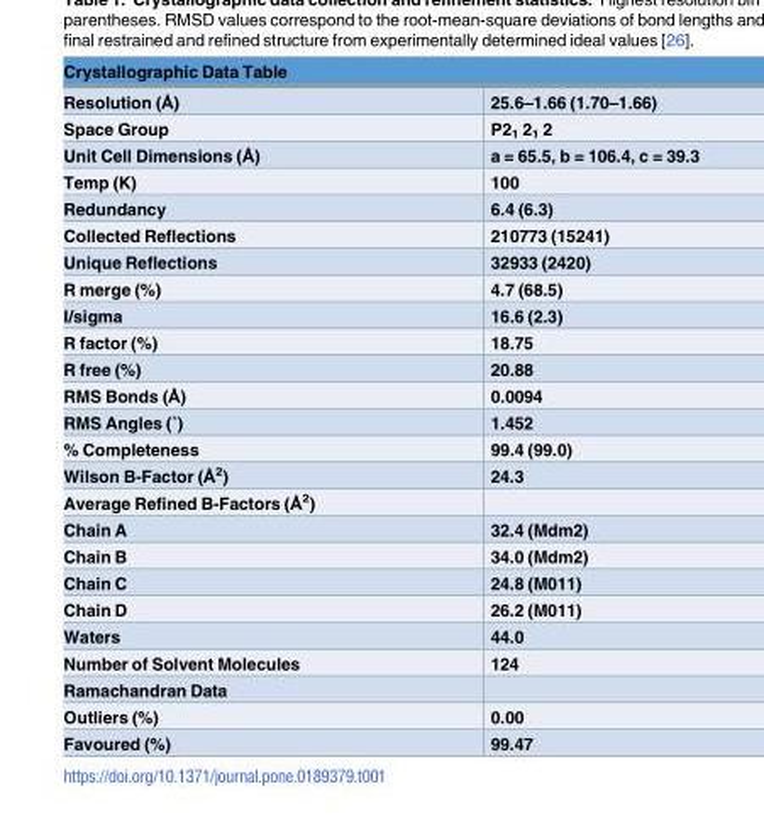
<table><thead><tr><td colspan="2">Crystallographic Data Table</td></tr><tr><td>Resolution (Å)</td><td>25.6–1.66 (1.70–1.66)</td></tr></thead><tbody><tr><td>Space Group</td><td>P2<sub>1</sub> 2<sub>1</sub> 2</td></tr><tr><td>Unit Cell Dimensions (Å)</td><td>a = 65.5, b = 106.4, c = 39.3</td></tr><tr><td>Temp (K)</td><td>100</td></tr><tr><td>Redundancy</td><td>6.4 (6.3)</td></tr><tr><td>Collected Reflections</td><td>210773 (15241)</td></tr><tr><td>Unique Reflections</td><td>32933 (2420)</td></tr><tr><td>R merge (%)</td><td>4.7 (68.5)</td></tr><tr><td>I/sigma</td><td>16.6 (2.3)</td></tr><tr><td>R factor (%)</td><td>18.75</td></tr><tr><td>R free (%)</td><td>20.88</td></tr><tr><td>RMS Bonds (Å)</td><td>0.0094</td></tr><tr><td>RMS Angles (˚)</td><td>1.452</td></tr><tr><td>% Completeness</td><td>99.4 (99.0)</td></tr><tr><td>Wilson B-Factor (Å<sup>2</sup>)</td><td>24.3</td></tr><tr><td colspan="2">Average Refined B-Factors (Å<sup>2</sup>)</td></tr><tr><td>Chain A</td><td>32.4 (Mdm2)</td></tr><tr><td>Chain B</td><td>34.0 (Mdm2)</td></tr><tr><td>Chain C</td><td>24.8 (M011)</td></tr><tr><td>Chain D</td><td>26.2 (M011)</td></tr><tr><td>Waters</td><td>44.0</td></tr><tr><td>Number of Solvent Molecules</td><td>124</td></tr><tr><td colspan="2">Ramachandran Data</td></tr><tr><td>Outliers (%)</td><td>0.00</td></tr><tr><td>Favoured (%)</td><td>99.47</td></tr></tbody></table>